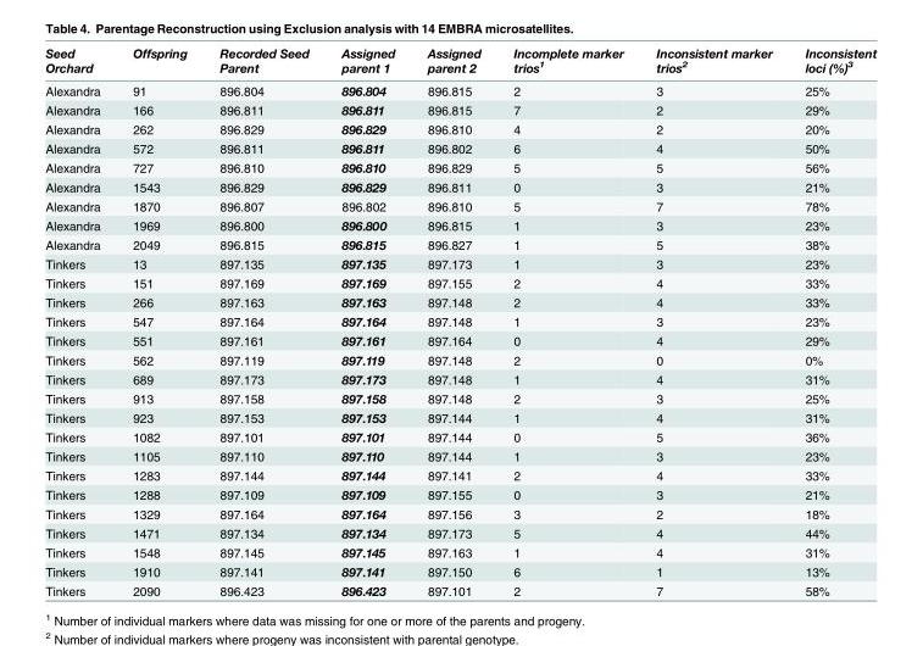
<table><thead><tr><td>Seed Orchard</td><td>Offspring</td><td>Recorded Seed Parent</td><td>Assigned parent 1</td><td>Assigned parent 2</td><td>Incomplete marker trios<sup>1</sup></td><td>Inconsistent marker trios<sup>2</sup></td><td>Inconsistent loci (%)<sup>3</sup></td></tr></thead><tbody><tr><td>Alexandra</td><td>91</td><td>896.804</td><td>896.804</td><td>896.815</td><td>2</td><td>3</td><td>25%</td></tr><tr><td>Alexandra</td><td>166</td><td>896.811</td><td>896.811</td><td>896.815</td><td>7</td><td>2</td><td>29%</td></tr><tr><td>Alexandra</td><td>262</td><td>896.829</td><td>896.829</td><td>896.810</td><td>4</td><td>2</td><td>20%</td></tr><tr><td>Alexandra</td><td>572</td><td>896.811</td><td>896.811</td><td>896.802</td><td>6</td><td>4</td><td>50%</td></tr><tr><td>Alexandra</td><td>727</td><td>896.810</td><td>896.810</td><td>896.829</td><td>5</td><td>5</td><td>56%</td></tr><tr><td>Alexandra</td><td>1543</td><td>896.829</td><td>896.829</td><td>896.811</td><td>0</td><td>3</td><td>21%</td></tr><tr><td>Alexandra</td><td>1870</td><td>896.807</td><td>896.802</td><td>896.810</td><td>5</td><td>7</td><td>78%</td></tr><tr><td>Alexandra</td><td>1969</td><td>896.800</td><td>896.800</td><td>896.815</td><td>1</td><td>3</td><td>23%</td></tr><tr><td>Alexandra</td><td>2049</td><td>896.815</td><td>896.815</td><td>896.827</td><td>1</td><td>5</td><td>38%</td></tr><tr><td>Tinkers</td><td>13</td><td>897.135</td><td>897.135</td><td>897.173</td><td>1</td><td>3</td><td>23%</td></tr><tr><td>Tinkers</td><td>151</td><td>897.169</td><td>897.169</td><td>897.155</td><td>2</td><td>4</td><td>33%</td></tr><tr><td>Tinkers</td><td>266</td><td>897.163</td><td>897.163</td><td>897.148</td><td>2</td><td>4</td><td>33%</td></tr><tr><td>Tinkers</td><td>547</td><td>897.164</td><td>897.164</td><td>897.148</td><td>1</td><td>3</td><td>23%</td></tr><tr><td>Tinkers</td><td>551</td><td>897.161</td><td>897.161</td><td>897.164</td><td>0</td><td>4</td><td>29%</td></tr><tr><td>Tinkers</td><td>562</td><td>897.119</td><td>897.119</td><td>897.148</td><td>2</td><td>0</td><td>0%</td></tr><tr><td>Tinkers</td><td>689</td><td>897.173</td><td>897.173</td><td>897.148</td><td>1</td><td>4</td><td>31%</td></tr><tr><td>Tinkers</td><td>913</td><td>897.158</td><td>897.158</td><td>897.148</td><td>2</td><td>3</td><td>25%</td></tr><tr><td>Tinkers</td><td>923</td><td>897.153</td><td>897.153</td><td>897.144</td><td>1</td><td>4</td><td>31%</td></tr><tr><td>Tinkers</td><td>1082</td><td>897.101</td><td>897.101</td><td>897.144</td><td>0</td><td>5</td><td>36%</td></tr><tr><td>Tinkers</td><td>1105</td><td>897.110</td><td>897.110</td><td>897.144</td><td>1</td><td>3</td><td>23%</td></tr><tr><td>Tinkers</td><td>1283</td><td>897.144</td><td>897.144</td><td>897.141</td><td>2</td><td>4</td><td>33%</td></tr><tr><td>Tinkers</td><td>1288</td><td>897.109</td><td>897.109</td><td>897.155</td><td>0</td><td>3</td><td>21%</td></tr><tr><td>Tinkers</td><td>1329</td><td>897.164</td><td>897.164</td><td>897.156</td><td>3</td><td>2</td><td>18%</td></tr><tr><td>Tinkers</td><td>1471</td><td>897.134</td><td>897.134</td><td>897.173</td><td>5</td><td>4</td><td>44%</td></tr><tr><td>Tinkers</td><td>1548</td><td>897.145</td><td>897.145</td><td>897.163</td><td>1</td><td>4</td><td>31%</td></tr><tr><td>Tinkers</td><td>1910</td><td>897.141</td><td>897.141</td><td>897.150</td><td>6</td><td>1</td><td>13%</td></tr><tr><td>Tinkers</td><td>2090</td><td>896.423</td><td>896.423</td><td>897.101</td><td>2</td><td>7</td><td>58%</td></tr></tbody></table>